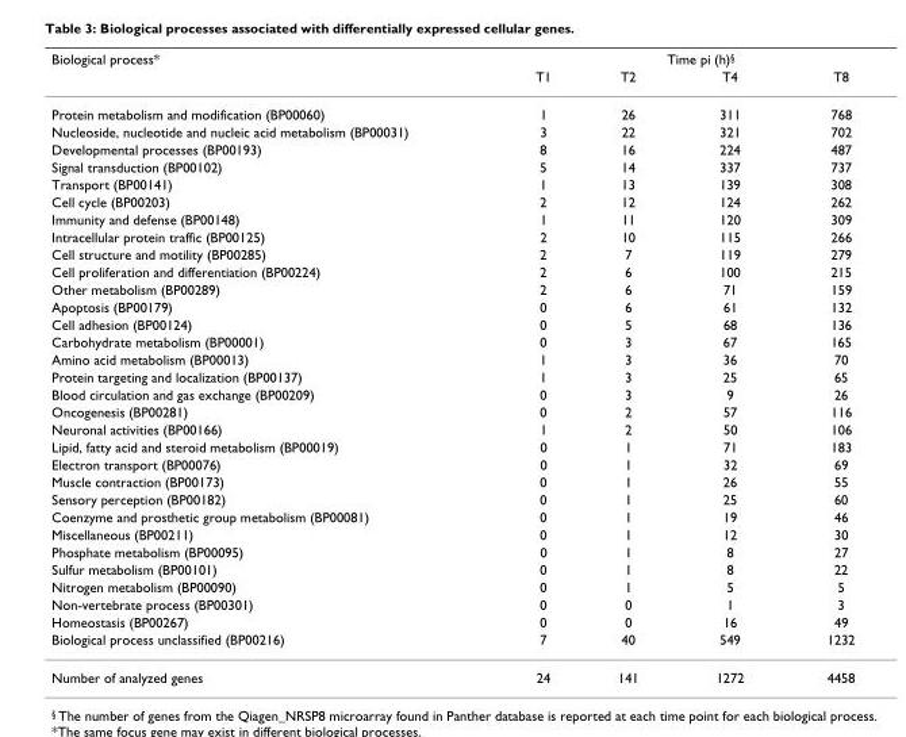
<table><thead><tr><td rowspan="2">Biological process*</td><td colspan="4">Time pi (h)<sup>§</sup></td></tr><tr><td>T1</td><td>T2</td><td>T4</td><td>T8</td></tr></thead><tbody><tr><td>Protein metabolism and modification (BP00060)</td><td>1</td><td>26</td><td>311</td><td>768</td></tr><tr><td>Nucleoside, nucleotide and nucleic acid metabolism (BP00031)</td><td>3</td><td>22</td><td>321</td><td>702</td></tr><tr><td>Developmental processes (BP00193)</td><td>8</td><td>16</td><td>224</td><td>487</td></tr><tr><td>Signal transduction (BP00102)</td><td>5</td><td>14</td><td>337</td><td>737</td></tr><tr><td>Transport (BP00141)</td><td>1</td><td>13</td><td>139</td><td>308</td></tr><tr><td>Cell cycle (BP00203)</td><td>2</td><td>12</td><td>124</td><td>262</td></tr><tr><td>Immunity and defense (BP00148)</td><td>1</td><td>11</td><td>120</td><td>309</td></tr><tr><td>Intracellular protein traffic (BP00125)</td><td>2</td><td>10</td><td>115</td><td>266</td></tr><tr><td>Cell structure and motility (BP00285)</td><td>2</td><td>7</td><td>119</td><td>279</td></tr><tr><td>Cell proliferation and differentiation (BP00224)</td><td>2</td><td>6</td><td>100</td><td>215</td></tr><tr><td>Other metabolism (BP00289)</td><td>2</td><td>6</td><td>71</td><td>159</td></tr><tr><td>Apoptosis (BP00179)</td><td>0</td><td>6</td><td>61</td><td>132</td></tr><tr><td>Cell adhesion (BP00124)</td><td>0</td><td>5</td><td>68</td><td>136</td></tr><tr><td>Carbohydrate metabolism (BP00001)</td><td>0</td><td>3</td><td>67</td><td>165</td></tr><tr><td>Amino acid metabolism (BP00013)</td><td>1</td><td>3</td><td>36</td><td>70</td></tr><tr><td>Protein targeting and localization (BP00137)</td><td>1</td><td>3</td><td>25</td><td>65</td></tr><tr><td>Blood circulation and gas exchange (BP00209)</td><td>0</td><td>3</td><td>9</td><td>26</td></tr><tr><td>Oncogenesis (BP00281)</td><td>0</td><td>2</td><td>57</td><td>116</td></tr><tr><td>Neuronal activities (BP00166)</td><td>1</td><td>2</td><td>50</td><td>106</td></tr><tr><td>Lipid, fatty acid and steroid metabolism (BP00019)</td><td>0</td><td>1</td><td>71</td><td>183</td></tr><tr><td>Electron transport (BP00076)</td><td>0</td><td>1</td><td>32</td><td>69</td></tr><tr><td>Muscle contraction (BP00173)</td><td>0</td><td>1</td><td>26</td><td>55</td></tr><tr><td>Sensory perception (BP00182)</td><td>0</td><td>1</td><td>25</td><td>60</td></tr><tr><td>Coenzyme and prosthetic group metabolism (BP00081)</td><td>0</td><td>1</td><td>19</td><td>46</td></tr><tr><td>Miscellaneous (BP00211)</td><td>0</td><td>1</td><td>12</td><td>30</td></tr><tr><td>Phosphate metabolism (BP00095)</td><td>0</td><td>1</td><td>8</td><td>27</td></tr><tr><td>Sulfur metabolism (BP00101)</td><td>0</td><td>1</td><td>8</td><td>22</td></tr><tr><td>Nitrogen metabolism (BP00090)</td><td>0</td><td>1</td><td>5</td><td>5</td></tr><tr><td>Non-vertebrate process (BP00301)</td><td>0</td><td>0</td><td>1</td><td>3</td></tr><tr><td>Homeostasis (BP00267)</td><td>0</td><td>0</td><td>16</td><td>49</td></tr><tr><td>Biological process unclassified (BP00216)</td><td>7</td><td>40</td><td>549</td><td>1232</td></tr><tr><td>Number of analyzed genes</td><td>24</td><td>141</td><td>1272</td><td>4458</td></tr></tbody></table>